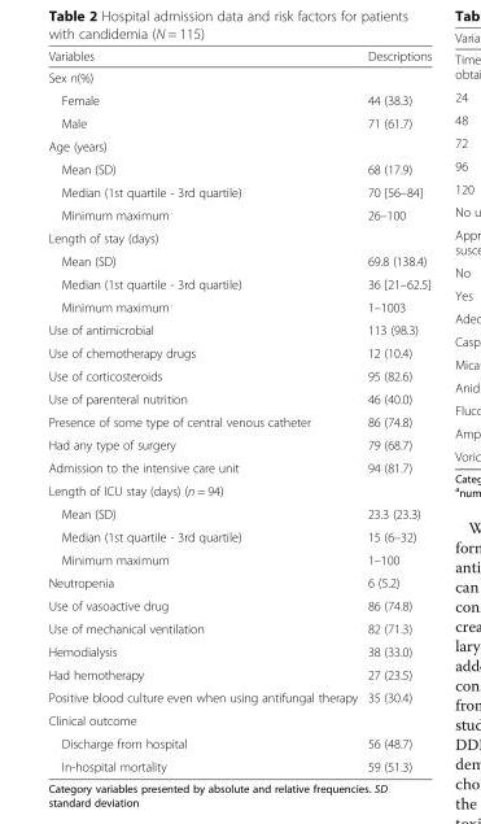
<table><thead><tr><td>Variables</td><td>Descriptions</td></tr></thead><tbody><tr><td colspan="2">Sex n(%)</td></tr><tr><td>Female</td><td>44 (38.3)</td></tr><tr><td>Male</td><td>71 (61.7)</td></tr><tr><td colspan="2">Age (years)</td></tr><tr><td>Mean (SD)</td><td>68 (17.9)</td></tr><tr><td>Median (1st quartile - 3rd quartile)</td><td>70 [56–84]</td></tr><tr><td>Minimum maximum</td><td>26–100</td></tr><tr><td colspan="2">Length of stay (days)</td></tr><tr><td>Mean (SD)</td><td>69.8 (138.4)</td></tr><tr><td>Median (1st quartile - 3rd quartile)</td><td>36 [21–62.5]</td></tr><tr><td>Minimum maximum</td><td>1–1003</td></tr><tr><td>Use of antimicrobial</td><td>113 (98.3)</td></tr><tr><td>Use of chemotherapy drugs</td><td>12 (10.4)</td></tr><tr><td>Use of corticosteroids</td><td>95 (82.6)</td></tr><tr><td>Use of parenteral nutrition</td><td>46 (40.0)</td></tr><tr><td>Presence of some type of central venous catheter</td><td>86 (74.8)</td></tr><tr><td>Had any type of surgery</td><td>79 (68.7)</td></tr><tr><td>Admission to the intensive care unit</td><td>94 (81.7)</td></tr><tr><td colspan="2">Length of ICU stay (days) (n = 94)</td></tr><tr><td>Mean (SD)</td><td>23.3 (23.3)</td></tr><tr><td>Median (1st quartile - 3rd quartile)</td><td>15 (6–32)</td></tr><tr><td>Minimum maximum</td><td>1–100</td></tr><tr><td>Neutropenia</td><td>6 (5.2)</td></tr><tr><td>Use of vasoactive drug</td><td>86 (74.8)</td></tr><tr><td>Use of mechanical ventilation</td><td>82 (71.3)</td></tr><tr><td>Hemodialysis</td><td>38 (33.0)</td></tr><tr><td>Had hemotherapy</td><td>27 (23.5)</td></tr><tr><td>Positive blood culture even when using antifungal therapy</td><td>35 (30.4)</td></tr><tr><td colspan="2">Clinical outcome</td></tr><tr><td>Discharge from hospital</td><td>56 (48.7)</td></tr><tr><td>In-hospital mortality</td><td>59 (51.3)</td></tr></tbody></table>